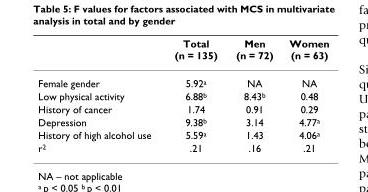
<table><thead><tr><td></td><td>Total (n = 135)</td><td>Men (n = 72)</td><td>Women (n = 63)</td></tr></thead><tbody><tr><td>Female gender</td><td>5.92<sup>a</sup></td><td>NA</td><td>NA</td></tr><tr><td>Low physical activity</td><td>6.88<sup>b</sup></td><td>8.43<sup>b</sup></td><td>0.48</td></tr><tr><td>History of cancer</td><td>1.74</td><td>0.91</td><td>0.29</td></tr><tr><td>Depression</td><td>9.38<sup>b</sup></td><td>3.14</td><td>4.77<sup>a</sup></td></tr><tr><td>History of high alcohol use</td><td>5.59<sup>a</sup></td><td>1.43</td><td>4.06<sup>a</sup></td></tr><tr><td>r<sup>2</sup></td><td>.21</td><td>.16</td><td>.21</td></tr></tbody></table>